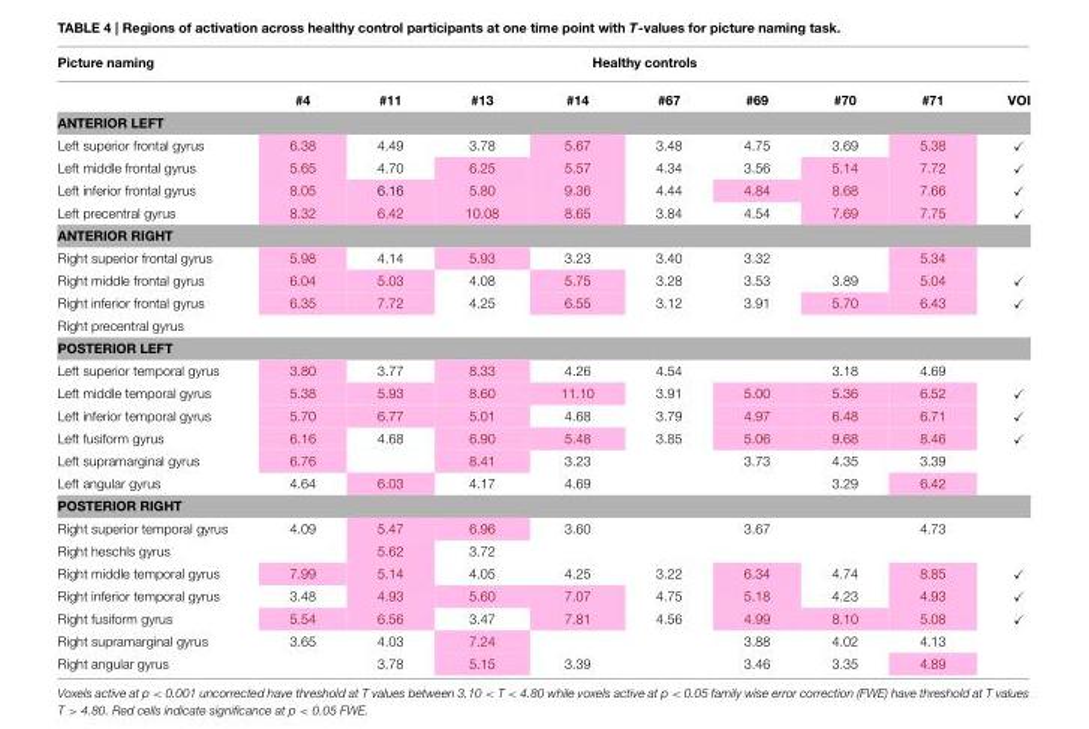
<table><thead><tr><td rowspan="2">Picture naming</td><td colspan="9">Healthy controls</td></tr><tr><td>#4</td><td>#11</td><td>#13</td><td>#14</td><td>#67</td><td>#69</td><td>#70</td><td>#71</td><td>VOI</td></tr></thead><tbody><tr><td colspan="10">ANTERIOR LEFT</td></tr><tr><td>Left superior frontal gyrus</td><td>6.38</td><td>4.49</td><td>3.78</td><td>5.67</td><td>3.48</td><td>4.75</td><td>3.69</td><td>5.38</td><td>✓</td></tr><tr><td>Left middle frontal gyrus</td><td>5.65</td><td>4.70</td><td>6.25</td><td>5.57</td><td>4.34</td><td>3.56</td><td>5.14</td><td>7.72</td><td>✓</td></tr><tr><td>Left inferior frontal gyrus</td><td>8.05</td><td>6.16</td><td>5.80</td><td>9.36</td><td>4.44</td><td>4.84</td><td>8.68</td><td>7.66</td><td>✓</td></tr><tr><td>Left precentral gyrus</td><td>8.32</td><td>6.42</td><td>10.08</td><td>8.65</td><td>3.84</td><td>4.54</td><td>7.69</td><td>7.75</td><td>✓</td></tr><tr><td colspan="10">ANTERIOR RIGHT</td></tr><tr><td>Right superior frontal gyrus</td><td>5.98</td><td>4.14</td><td>5.93</td><td>3.23</td><td>3.40</td><td>3.32</td><td></td><td>5.34</td><td></td></tr><tr><td>Right middle frontal gyrus</td><td>6.04</td><td>5.03</td><td>4.08</td><td>5.75</td><td>3.28</td><td>3.53</td><td>3.89</td><td>5.04</td><td>✓</td></tr><tr><td>Right inferior frontal gyrus</td><td>6.35</td><td>7.72</td><td>4.25</td><td>6.55</td><td>3.12</td><td>3.91</td><td>5.70</td><td>6.43</td><td>✓</td></tr><tr><td colspan="10">Right precentral gyrus</td></tr><tr><td colspan="10">POSTERIOR LEFT</td></tr><tr><td>Left superior temporal gyrus</td><td>3.80</td><td>3.77</td><td>8.33</td><td>4.26</td><td>4.54</td><td></td><td>3.18</td><td>4.69</td><td></td></tr><tr><td>Left middle temporal gyrus</td><td>5.38</td><td>5.93</td><td>8.60</td><td>11.10</td><td>3.91</td><td>5.00</td><td>5.36</td><td>6.52</td><td>✓</td></tr><tr><td>Left inferior temporal gyrus</td><td>5.70</td><td>6.77</td><td>5.01</td><td>4.68</td><td>3.79</td><td>4.97</td><td>6.48</td><td>6.71</td><td>✓</td></tr><tr><td>Left fusiform gyrus</td><td>6.16</td><td>4.68</td><td>6.90</td><td>5.48</td><td>3.85</td><td>5.06</td><td>9.68</td><td>8.46</td><td>✓</td></tr><tr><td>Left supramarginal gyrus</td><td>6.76</td><td></td><td>8.41</td><td>3.23</td><td></td><td>3.73</td><td>4.35</td><td>3.39</td><td></td></tr><tr><td>Left angular gyrus</td><td>4.64</td><td>6.03</td><td>4.17</td><td>4.69</td><td></td><td></td><td>3.29</td><td>6.42</td><td></td></tr><tr><td colspan="10">POSTERIOR RIGHT</td></tr><tr><td>Right superior temporal gyrus</td><td>4.09</td><td>5.47</td><td>6.96</td><td>3.60</td><td></td><td>3.67</td><td></td><td>4.73</td><td></td></tr><tr><td>Right heschls gyrus</td><td></td><td>5.62</td><td>3.72</td><td></td><td></td><td></td><td></td><td></td><td></td></tr><tr><td>Right middle temporal gyrus</td><td>7.99</td><td>5.14</td><td>4.05</td><td>4.25</td><td>3.22</td><td>6.34</td><td>4.74</td><td>8.85</td><td>✓</td></tr><tr><td>Right inferior temporal gyrus</td><td>3.48</td><td>4.93</td><td>5.60</td><td>7.07</td><td>4.75</td><td>5.18</td><td>4.23</td><td>4.93</td><td>✓</td></tr><tr><td>Right fusiform gyrus</td><td>5.54</td><td>6.56</td><td>3.47</td><td>7.81</td><td>4.56</td><td>4.99</td><td>8.10</td><td>5.08</td><td>✓</td></tr><tr><td>Right supramarginal gyrus</td><td>3.65</td><td>4.03</td><td>7.24</td><td></td><td></td><td>3.88</td><td>4.02</td><td>4.13</td><td></td></tr><tr><td>Right angular gyrus</td><td></td><td>3.78</td><td>5.15</td><td>3.39</td><td></td><td>3.46</td><td>3.35</td><td>4.89</td><td></td></tr></tbody></table>